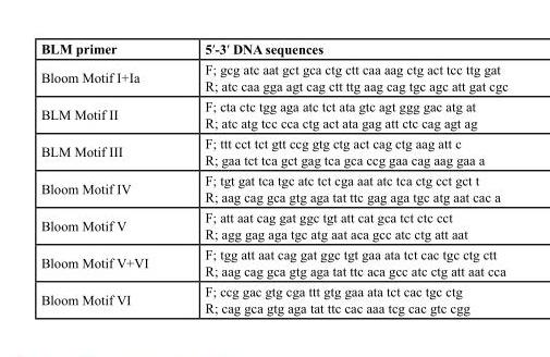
<table><thead><tr><td>BLM primer</td><td>5′-3′ DNA sequences</td></tr></thead><tbody><tr><td rowspan="2">Bloom Motif I+Ia</td><td>F; gcg atc aat gct gca ctg ctt caa aag ctg act tcc ttg gat</td></tr><tr><td>R; atc caa gga agt cag ctt ttg aag cag tgc agc att gat cgc</td></tr><tr><td rowspan="2">BLM Motif II</td><td>F; cta ctc tgg aga atc tct ata gtc agt ggg gac atg at</td></tr><tr><td>R; atc atg tcc cca ctg act ata gag att ctc cag agt ag</td></tr><tr><td rowspan="2">BLM Motif III</td><td>F; ttt cct tct gtt ccg gtg ctg act cag ctg aag att c</td></tr><tr><td>R; gaa tct tca gct gag tca gca ccg gaa cag aag gaa a</td></tr><tr><td rowspan="2">Bloom Motif IV</td><td>F; tgt gat tca tgc atc tct cga aat atc tca ctg cct gct t</td></tr><tr><td>R; aag cag gca gtg aga tat ttc gag aga tgc atg aat cac a</td></tr><tr><td rowspan="2">Bloom Motif V</td><td>F; att aat cag gat ggc tgt att cat gca tct ctc cct</td></tr><tr><td>R; agg gag aga tgc atg aat aca gcc atc ctg att aat</td></tr><tr><td rowspan="2">Bloom Motif V+VI</td><td>F; tgg att aat cag gat ggc tgt gaa ata tct cac tgc ctg ctt</td></tr><tr><td>R; aag cag gca gtg aga tat ttc aca gcc atc ctg att aat cca</td></tr><tr><td rowspan="2">Bloom Motif VI</td><td>F; ccg gac gtg cga ttt gtg gaa ata tct cac tgc ctg</td></tr><tr><td>R; cag gca gtg aga tat ttc cac aaa tcg cac gtc cgg</td></tr></tbody></table>